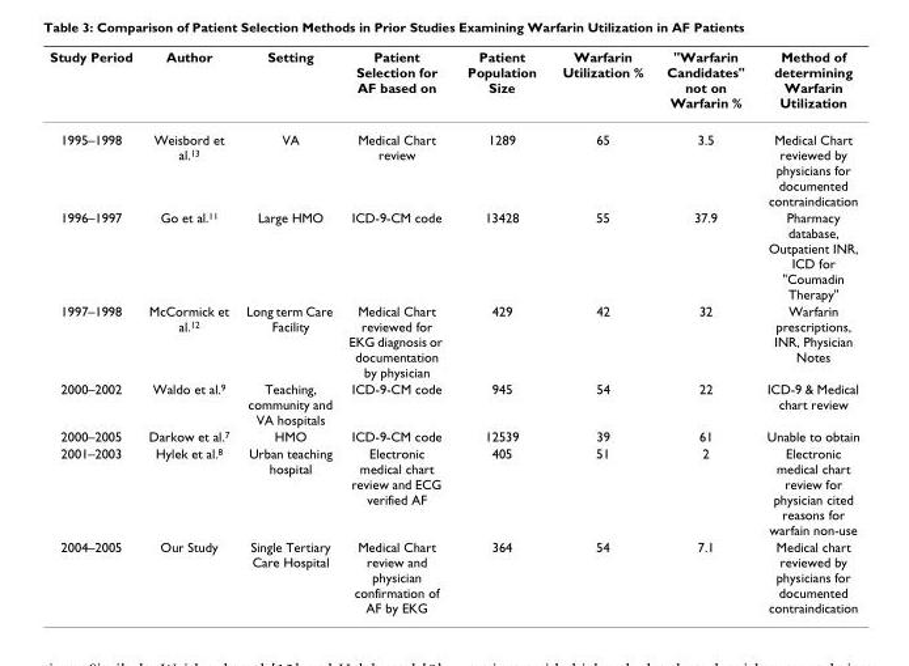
<table><thead><tr><td>Study Period</td><td>Author</td><td>Setting</td><td>Patient Selection for AF based on</td><td>Patient Population Size</td><td>Warfarin Utilization %</td><td>&quot;Warfarin Candidates&quot; not on Warfarin %</td><td>Method of determining Warfarin Utilization</td></tr></thead><tbody><tr><td>1995–1998</td><td>Weisbord et al.<sup>13</sup></td><td>VA</td><td>Medical Chart review</td><td>1289</td><td>65</td><td>3.5</td><td>Medical Chart reviewed by physicians for documented contraindication</td></tr><tr><td>1996–1997</td><td>Go et al.<sup>11</sup></td><td>Large HMO</td><td>ICD-9-CM code</td><td>13428</td><td>55</td><td>37.9</td><td>Pharmacy database, Outpatient INR, ICD for &quot;Coumadin Therapy&quot;</td></tr><tr><td>1997–1998</td><td>McCormick et al.<sup>12</sup></td><td>Long term Care Facility</td><td>Medical Chart reviewed for EKG diagnosis or documentation by physician</td><td>429</td><td>42</td><td>32</td><td>Warfarin prescriptions, INR, Physician Notes</td></tr><tr><td>2000–2002</td><td>Waldo et al.<sup>9</sup></td><td>Teaching, community and VA hospitals</td><td>ICD-9-CM code</td><td>945</td><td>54</td><td>22</td><td>ICD-9 &amp; Medical chart review</td></tr><tr><td>2000–2005</td><td>Darkow et al.<sup>7</sup></td><td>HMO</td><td>ICD-9-CM code</td><td>12539</td><td>39</td><td>61</td><td>Unable to obtain</td></tr><tr><td>2001–2003</td><td>Hylek et al.<sup>8</sup></td><td>Urban teaching hospital</td><td>Electronic medical chart review and ECG verified AF</td><td>405</td><td>51</td><td>2</td><td>Electronic medical chart review for physician cited reasons for warfain non-use</td></tr><tr><td>2004–2005</td><td>Our Study</td><td>Single Tertiary Care Hospital</td><td>Medical Chart review and physician confirmation of AF by EKG</td><td>364</td><td>54</td><td>7.1</td><td>Medical chart reviewed by physicians for documented contraindication</td></tr></tbody></table>